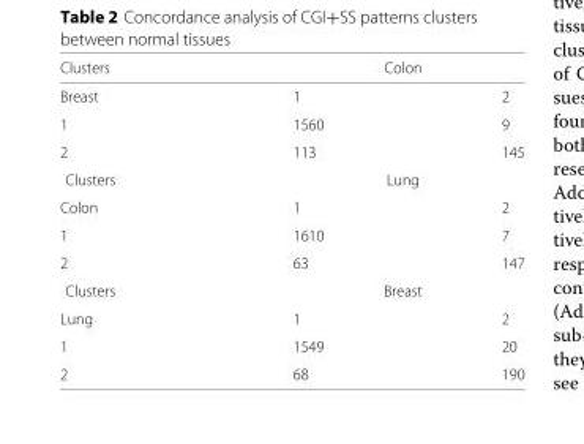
<table><thead><tr><td rowspan="2">Clusters Breast</td><td colspan="2">Colon</td></tr><tr><td>1</td><td>2</td></tr></thead><tbody><tr><td>1</td><td>1560</td><td>9</td></tr><tr><td>2</td><td>113</td><td>145</td></tr><tr><td>Clusters</td><td colspan="2">Lung</td></tr><tr><td>Colon</td><td>1</td><td>2</td></tr><tr><td>1</td><td>1610</td><td>7</td></tr><tr><td>2</td><td>63</td><td>147</td></tr><tr><td>Clusters</td><td colspan="2">Breast</td></tr><tr><td>Lung</td><td>1</td><td>2</td></tr><tr><td>1</td><td>1549</td><td>20</td></tr><tr><td>2</td><td>68</td><td>190</td></tr></tbody></table>